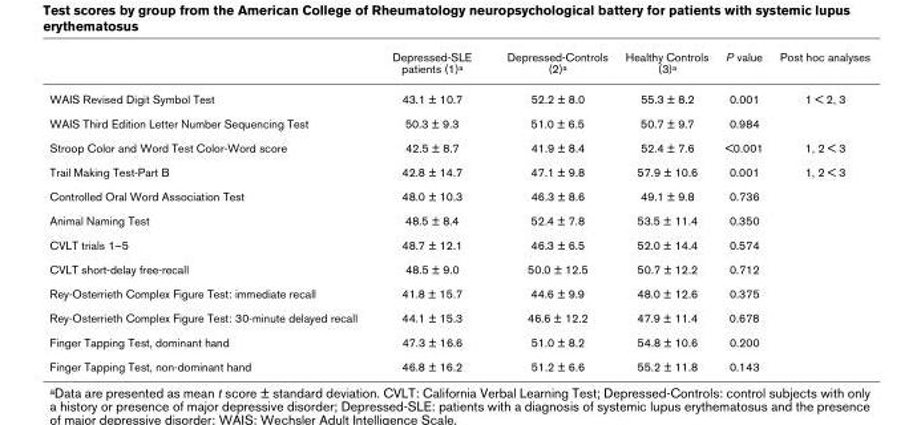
<table><thead><tr><td></td><td>Depressed-SLE patients (1)<sup>a</sup></td><td>Depressed-Controls (2)<sup>a</sup></td><td>Healthy Controls (3)<sup>a</sup></td><td>P value</td><td>Post hoc analyses</td></tr></thead><tbody><tr><td>WAIS Revised Digit Symbol Test</td><td>43.1 ± 10.7</td><td>52.2 ± 8.0</td><td>55.3 ± 8.2</td><td>0.001</td><td>1 &lt; 2, 3</td></tr><tr><td>WAIS Third Edition Letter Number Sequencing Test</td><td>50.3 ± 9.3</td><td>51.0 ± 6.5</td><td>50.7 ± 9.7</td><td>0.984</td><td></td></tr><tr><td>Stroop Color and Word Test Color-Word score</td><td>42.5 ± 8.7</td><td>41.9 ± 8.4</td><td>52.4 ± 7.6</td><td>&lt;0.001</td><td>1, 2 &lt; 3</td></tr><tr><td>Trail Making Test-Part B</td><td>42.8 ± 14.7</td><td>47.1 ± 9.8</td><td>57.9 ± 10.6</td><td>0.001</td><td>1, 2 &lt; 3</td></tr><tr><td>Controlled Oral Word Association Test</td><td>48.0 ± 10.3</td><td>46.3 ± 8.6</td><td>49.1 ± 9.8</td><td>0.736</td><td></td></tr><tr><td>Animal Naming Test</td><td>48.5 ± 8.4</td><td>52.4 ± 7.8</td><td>53.5 ± 11.4</td><td>0.350</td><td></td></tr><tr><td>CVLT trials 1–5</td><td>48.7 ± 12.1</td><td>46.3 ± 6.5</td><td>52.0 ± 14.4</td><td>0.574</td><td></td></tr><tr><td>CVLT short-delay free-recall</td><td>48.5 ± 9.0</td><td>50.0 ± 12.5</td><td>50.7 ± 12.2</td><td>0.712</td><td></td></tr><tr><td>Rey-Osterrieth Complex Figure Test: immediate recall</td><td>41.8 ± 15.7</td><td>44.6 ± 9.9</td><td>48.0 ± 12.6</td><td>0.375</td><td></td></tr><tr><td>Rey-Osterrieth Complex Figure Test: 30-minute delayed recall</td><td>44.1 ± 15.3</td><td>46.6 ± 12.2</td><td>47.9 ± 11.4</td><td>0.678</td><td></td></tr><tr><td>Finger Tapping Test, dominant hand</td><td>47.3 ± 16.6</td><td>51.0 ± 8.2</td><td>54.8 ± 10.6</td><td>0.200</td><td></td></tr><tr><td>Finger Tapping Test, non-dominant hand</td><td>46.8 ± 16.2</td><td>51.2 ± 6.6</td><td>55.2 ± 11.8</td><td>0.143</td><td></td></tr></tbody></table>